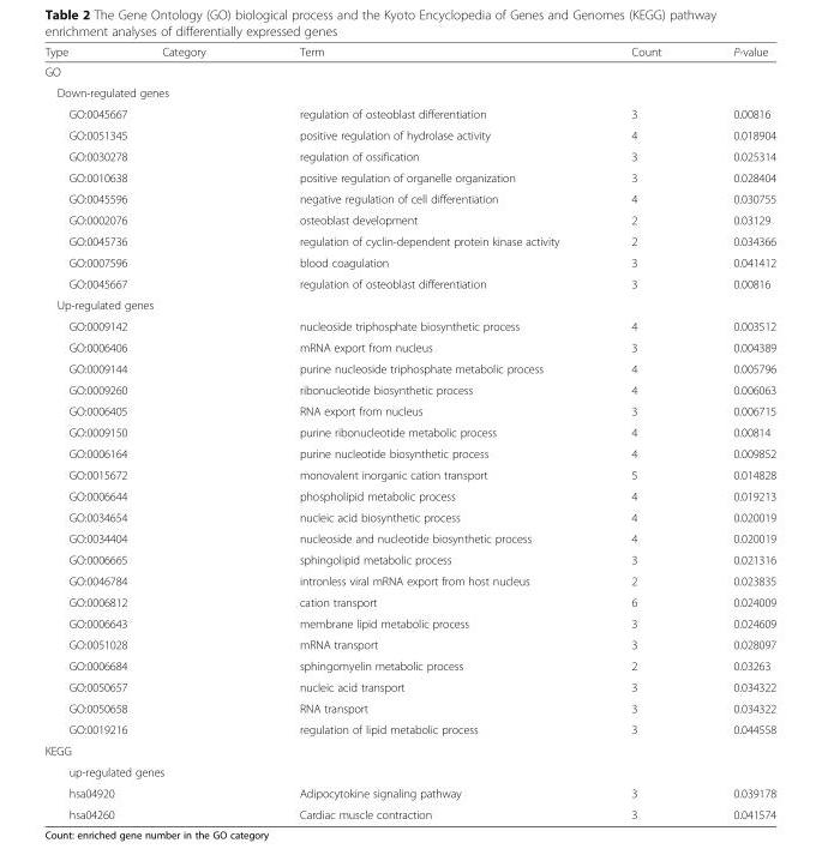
<table><thead><tr><td>Type</td><td>Category</td><td>Term</td><td>Count</td><td>P-value</td></tr></thead><tbody><tr><td colspan="5">GO</td></tr><tr><td colspan="5">Down-regulated genes</td></tr><tr><td colspan="2">GO:0045667</td><td>regulation of osteoblast differentiation</td><td>3</td><td>0.00816</td></tr><tr><td colspan="2">GO:0051345</td><td>positive regulation of hydrolase activity</td><td>4</td><td>0.018904</td></tr><tr><td colspan="2">GO:0030278</td><td>regulation of ossification</td><td>3</td><td>0.025314</td></tr><tr><td colspan="2">GO:0010638</td><td>positive regulation of organelle organization</td><td>3</td><td>0.028404</td></tr><tr><td colspan="2">GO:0045596</td><td>negative regulation of cell differentiation</td><td>4</td><td>0.030755</td></tr><tr><td colspan="2">GO:0002076</td><td>osteoblast development</td><td>2</td><td>0.03129</td></tr><tr><td colspan="2">GO:0045736</td><td>regulation of cyclin-dependent protein kinase activity</td><td>2</td><td>0.034366</td></tr><tr><td colspan="2">GO:0007596</td><td>blood coagulation</td><td>3</td><td>0.041412</td></tr><tr><td colspan="2">GO:0045667</td><td>regulation of osteoblast differentiation</td><td>3</td><td>0.00816</td></tr><tr><td colspan="5">Up-regulated genes</td></tr><tr><td colspan="2">GO:0009142</td><td>nucleoside triphosphate biosynthetic process</td><td>4</td><td>0.003512</td></tr><tr><td colspan="2">GO:0006406</td><td>mRNA export from nucleus</td><td>3</td><td>0.004389</td></tr><tr><td colspan="2">GO:0009144</td><td>purine nucleoside triphosphate metabolic process</td><td>4</td><td>0.005796</td></tr><tr><td colspan="2">GO:0009260</td><td>ribonucleotide biosynthetic process</td><td>4</td><td>0.006063</td></tr><tr><td colspan="2">GO:0006405</td><td>RNA export from nucleus</td><td>3</td><td>0.006715</td></tr><tr><td colspan="2">GO:0009150</td><td>purine ribonucleotide metabolic process</td><td>4</td><td>0.00814</td></tr><tr><td colspan="2">GO:0006164</td><td>purine nucleotide biosynthetic process</td><td>4</td><td>0.009852</td></tr><tr><td colspan="2">GO:0015672</td><td>monovalent inorganic cation transport</td><td>5</td><td>0.014828</td></tr><tr><td colspan="2">GO:0006644</td><td>phospholipid metabolic process</td><td>4</td><td>0.019213</td></tr><tr><td colspan="2">GO:0034654</td><td>nucleic acid biosynthetic process</td><td>4</td><td>0.020019</td></tr><tr><td colspan="2">GO:0034404</td><td>nucleoside and nucleotide biosynthetic process</td><td>4</td><td>0.020019</td></tr><tr><td colspan="2">GO:0006665</td><td>sphingolipid metabolic process</td><td>3</td><td>0.021316</td></tr><tr><td colspan="2">GO:0046784</td><td>intronless viral mRNA export from host nucleus</td><td>2</td><td>0.023835</td></tr><tr><td colspan="2">GO:0006812</td><td>cation transport</td><td>6</td><td>0.024009</td></tr><tr><td colspan="2">GO:0006643</td><td>membrane lipid metabolic process</td><td>3</td><td>0.024609</td></tr><tr><td colspan="2">GO:0051028</td><td>mRNA transport</td><td>3</td><td>0.028097</td></tr><tr><td colspan="2">GO:0006684</td><td>sphingomyelin metabolic process</td><td>2</td><td>0.03263</td></tr><tr><td colspan="2">GO:0050657</td><td>nucleic acid transport</td><td>3</td><td>0.034322</td></tr><tr><td colspan="2">GO:0050658</td><td>RNA transport</td><td>3</td><td>0.034322</td></tr><tr><td colspan="2">GO:0019216</td><td>regulation of lipid metabolic process</td><td>3</td><td>0.044558</td></tr><tr><td colspan="5">KEGG</td></tr><tr><td colspan="5">up-regulated genes</td></tr><tr><td colspan="2">hsa04920</td><td>Adipocytokine signaling pathway</td><td>3</td><td>0.039178</td></tr><tr><td colspan="2">hsa04260</td><td>Cardiac muscle contraction</td><td>3</td><td>0.041574</td></tr></tbody></table>